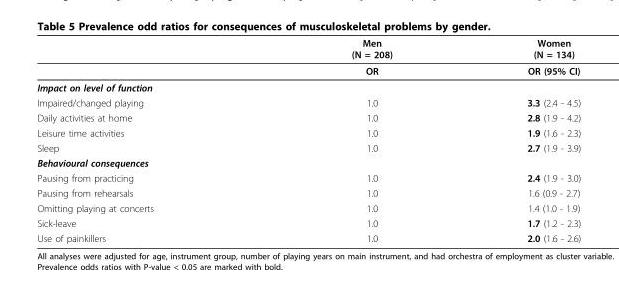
<table><thead><tr><td></td><td>Men (N = 208)</td><td>Women (N = 134)</td></tr></thead><tbody><tr><td></td><td>OR</td><td>OR (95% CI)</td></tr><tr><td colspan="3">Impact on level of function</td></tr><tr><td>Impaired/changed playing</td><td>1.0</td><td>3.3 (2.4 - 4.5)</td></tr><tr><td>Daily activities at home</td><td>1.0</td><td>2.8 (1.9 - 4.2)</td></tr><tr><td>Leisure time activities</td><td>1.0</td><td>1.9 (1.6 - 2.3)</td></tr><tr><td>Sleep</td><td>1.0</td><td>2.7 (1.9 - 3.9)</td></tr><tr><td colspan="3">Behavioural consequences</td></tr><tr><td>Pausing from practicing</td><td>1.0</td><td>2.4 (1.9 - 3.0)</td></tr><tr><td>Pausing from rehearsals</td><td>1.0</td><td>1.6 (0.9 - 2.7)</td></tr><tr><td>Omitting playing at concerts</td><td>1.0</td><td>1.4 (1.0 - 1.9)</td></tr><tr><td>Sick-leave</td><td>1.0</td><td>1.7 (1.2 - 2.3)</td></tr><tr><td>Use of painkillers</td><td>1.0</td><td>2.0 (1.6 - 2.6)</td></tr></tbody></table>